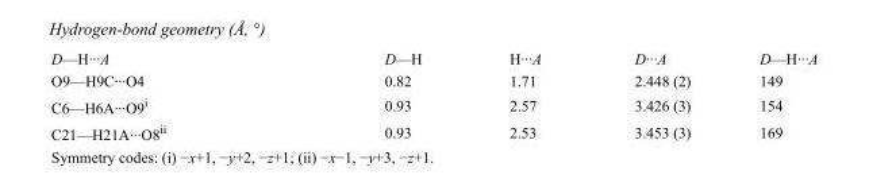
<table><tbody><tr><td>D—H···A</td><td>D—H</td><td>H···A</td><td>D···A</td><td>D—H···A</td></tr><tr><td>O9—H9C···O4</td><td>0.82</td><td>1.71</td><td>2.448 (2)</td><td>149</td></tr><tr><td>C6—H6A···O9<sup>i</sup></td><td>0.93</td><td>2.57</td><td>3.426 (3)</td><td>154</td></tr><tr><td>C21—H21A···O8<sup>ii</sup></td><td>0.93</td><td>2.53</td><td>3.453 (3)</td><td>169</td></tr></tbody></table>